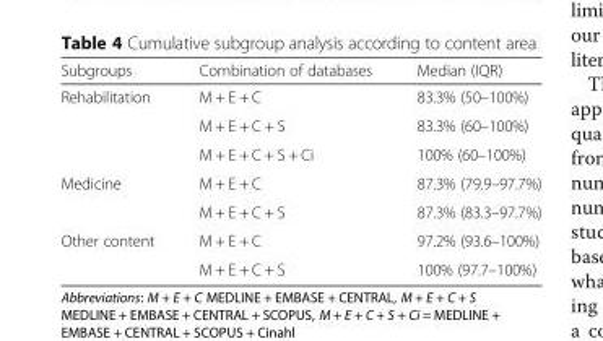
<table><thead><tr><td>Subgroups</td><td>Combination of databases</td><td>Median (IQR)</td></tr></thead><tbody><tr><td rowspan="3">Rehabilitation</td><td>M + E + C</td><td>83.3% (50–100%)</td></tr><tr><td>M + E + C + S</td><td>83.3% (60–100%)</td></tr><tr><td>M + E + C + S + Ci</td><td>100% (60–100%)</td></tr><tr><td rowspan="2">Medicine</td><td>M + E + C</td><td>87.3% (79.9–97.7%)</td></tr><tr><td>M + E + C + S</td><td>87.3% (83.3–97.7%)</td></tr><tr><td rowspan="2">Other content</td><td>M + E + C</td><td>97.2% (93.6–100%)</td></tr><tr><td>M + E + C + S</td><td>100% (97.7–100%)</td></tr></tbody></table>